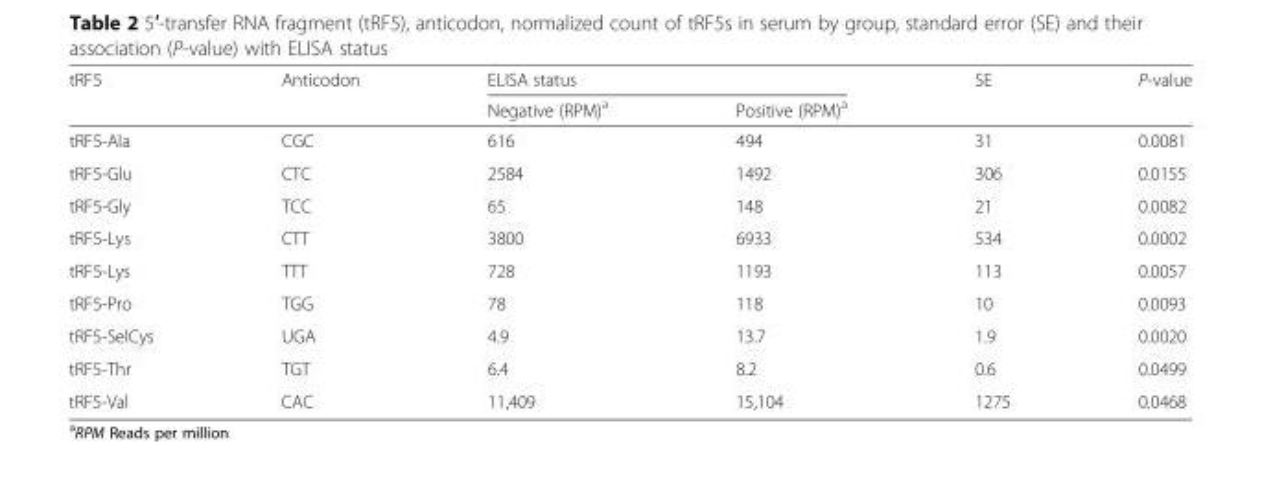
<table><thead><tr><td rowspan="2">tRF5</td><td rowspan="2">Anticodon</td><td colspan="2">ELISA status</td><td rowspan="2">SE</td><td rowspan="2">P-value</td></tr><tr><td>Negative (RPM)<sup>a</sup></td><td>Positive (RPM)<sup>a</sup></td></tr></thead><tbody><tr><td>tRF5-Ala</td><td>CGC</td><td>616</td><td>494</td><td>31</td><td>0.0081</td></tr><tr><td>tRF5-Glu</td><td>CTC</td><td>2584</td><td>1492</td><td>306</td><td>0.0155</td></tr><tr><td>tRF5-Gly</td><td>TCC</td><td>65</td><td>148</td><td>21</td><td>0.0082</td></tr><tr><td>tRF5-Lys</td><td>CTT</td><td>3800</td><td>6933</td><td>534</td><td>0.0002</td></tr><tr><td>tRF5-Lys</td><td>TTT</td><td>728</td><td>1193</td><td>113</td><td>0.0057</td></tr><tr><td>tRF5-Pro</td><td>TGG</td><td>78</td><td>118</td><td>10</td><td>0.0093</td></tr><tr><td>tRF5-SelCys</td><td>UGA</td><td>4.9</td><td>13.7</td><td>1.9</td><td>0.0020</td></tr><tr><td>tRF5-Thr</td><td>TGT</td><td>6.4</td><td>8.2</td><td>0.6</td><td>0.0499</td></tr><tr><td>tRF5-Val</td><td>CAC</td><td>11,409</td><td>15,104</td><td>1275</td><td>0.0468</td></tr></tbody></table>